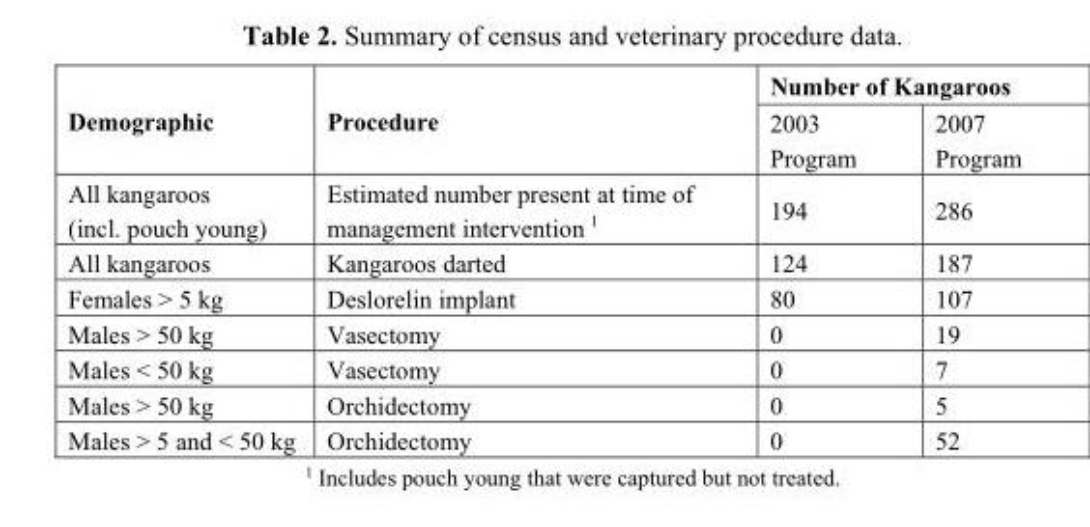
<table><tbody><tr><td rowspan="2">Demographic</td><td rowspan="2">Procedure</td><td colspan="2">Number of Kangaroos</td></tr><tr><td>2003 Program</td><td>2007 Program</td></tr><tr><td>All kangaroos (incl. pouch young)</td><td>Estimated number present at time of management intervention <sup>1</sup></td><td>194</td><td>286</td></tr><tr><td>All kangaroos</td><td>Kangaroos darted</td><td>124</td><td>187</td></tr><tr><td>Females &gt; 5 kg</td><td>Deslorelin implant</td><td>80</td><td>107</td></tr><tr><td>Males &gt; 50 kg</td><td>Vasectomy</td><td>0</td><td>19</td></tr><tr><td>Males &lt; 50 kg</td><td>Vasectomy</td><td>0</td><td>7</td></tr><tr><td>Males &gt; 50 kg</td><td>Orchidectomy</td><td>0</td><td>5</td></tr><tr><td>Males &gt; 5 and &lt; 50 kg</td><td>Orchidectomy</td><td>0</td><td>52</td></tr></tbody></table>